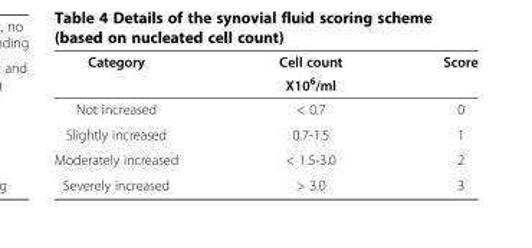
<table><thead><tr><td rowspan="2">Category</td><td rowspan="2">Cell count X10<sup>6</sup>/ml</td><td rowspan="2">Score</td></tr><tr></tr></thead><tbody><tr><td>Not increased</td><td>&lt; 0.7</td><td>0</td></tr><tr><td>Slightly increased</td><td>0.7-1.5</td><td>1</td></tr><tr><td>Moderately increased</td><td>&lt; 1.5-3.0</td><td>2</td></tr><tr><td>Severely increased</td><td>&gt; 3.0</td><td>3</td></tr></tbody></table>